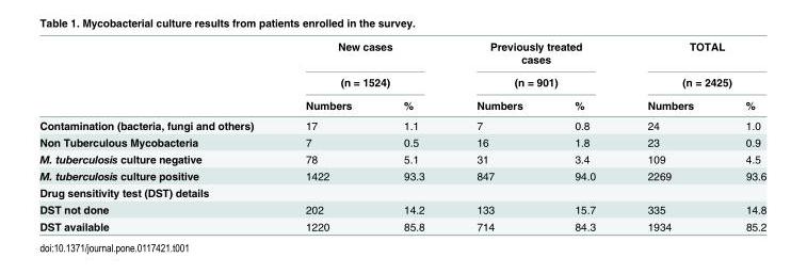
<table><thead><tr><td rowspan="3"></td><td rowspan="2" colspan="2">New cases (n = 1524)</td><td rowspan="2" colspan="2">Previously treated cases (n = 901)</td><td rowspan="2" colspan="2">TOTAL (n = 2425)</td></tr><tr></tr><tr><td>Numbers</td><td>%</td><td>Numbers</td><td>%</td><td>Numbers</td><td>%</td></tr></thead><tbody><tr><td>Contamination (bacteria, fungi and others)</td><td>17</td><td>1.1</td><td>7</td><td>0.8</td><td>24</td><td>1.0</td></tr><tr><td>Non Tuberculous Mycobacteria</td><td>7</td><td>0.5</td><td>16</td><td>1.8</td><td>23</td><td>0.9</td></tr><tr><td>M. tuberculosis culture negative</td><td>78</td><td>5.1</td><td>31</td><td>3.4</td><td>109</td><td>4.5</td></tr><tr><td>M. tuberculosis culture positive</td><td>1422</td><td>93.3</td><td>847</td><td>94.0</td><td>2269</td><td>93.6</td></tr><tr><td colspan="7">Drug sensitivity test (DST) details</td></tr><tr><td>DST not done</td><td>202</td><td>14.2</td><td>133</td><td>15.7</td><td>335</td><td>14.8</td></tr><tr><td>DST available</td><td>1220</td><td>85.8</td><td>714</td><td>84.3</td><td>1934</td><td>85.2</td></tr></tbody></table>